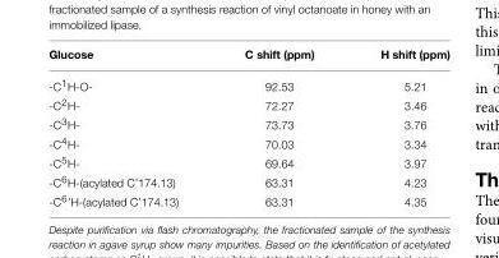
<table><thead><tr><td>Glucose</td><td>C shift (ppm)</td><td>H shift (ppm)</td></tr></thead><tbody><tr><td>-C<sup>1</sup>H-O-</td><td>92.53</td><td>5.21</td></tr><tr><td>-C<sup>2</sup>H-</td><td>72.27</td><td>3.46</td></tr><tr><td>-C<sup>3</sup>H-</td><td>73.73</td><td>3.76</td></tr><tr><td>-C<sup>4</sup>H-</td><td>70.03</td><td>3.34</td></tr><tr><td>-C<sup>5</sup>H-</td><td>69.64</td><td>3.97</td></tr><tr><td>-C<sup>6</sup>H-(acylated C’174.13)</td><td>63.31</td><td>4.23</td></tr><tr><td>-C<sup>6</sup>’H-(acylated C’174.13)</td><td>63.31</td><td>4.35</td></tr></tbody></table>